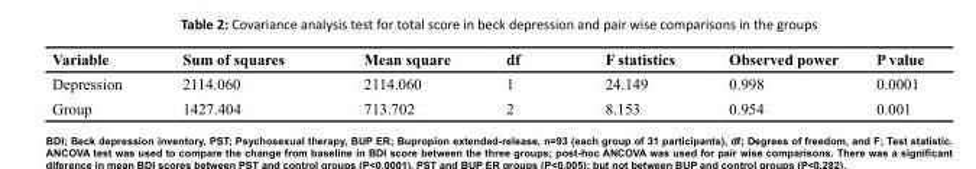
<table><thead><tr><td>Variable</td><td>Sum of squares</td><td>Mean square</td><td>df</td><td>F statistics</td><td>Observed power</td><td>P value</td></tr></thead><tbody><tr><td>Depression</td><td>2114.060</td><td>2114.060</td><td>1</td><td>24.149</td><td>0.998</td><td>0.0001</td></tr><tr><td>Group</td><td>1427.404</td><td>713.702</td><td>2</td><td>8.153</td><td>0.954</td><td>0.001</td></tr></tbody></table>